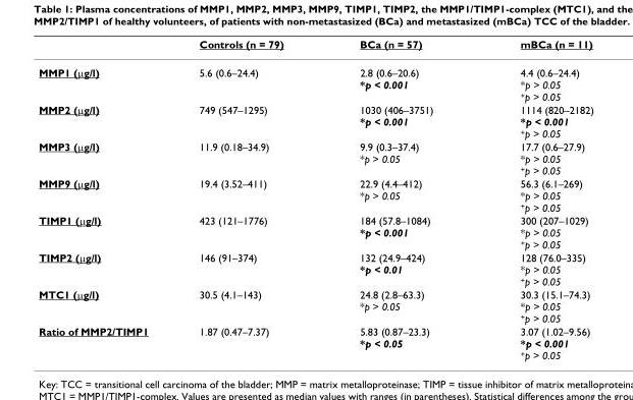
<table><thead><tr><td></td><td>Controls (n = 79)</td><td>BCa (n = 57)</td><td>mBCa (n = 11)</td></tr></thead><tbody><tr><td>MMP1 (μg/l)</td><td>5.6 (0.6–24.4)</td><td>2.8 (0.6–20.6) *p &lt; 0.001</td><td>4.4 (0.6–24.4) *p &gt; 0.05 +p &gt; 0.05</td></tr><tr><td>MMP2 (μg/l)</td><td>749 (547–1295)</td><td>1030 (406–3751) *p &lt; 0.001</td><td>1114 (820–2182) *p &lt; 0.001 +p &gt; 0.05</td></tr><tr><td>MMP3 (μg/l)</td><td>11.9 (0.18–34.9)</td><td>9.9 (0.3–37.4) *p &gt; 0.05</td><td>17.7 (0.6–27.9) *p &gt; 0.05 +p &gt; 0.05</td></tr><tr><td>MMP9 (μg/l)</td><td>19.4 (3.52–411)</td><td>22.9 (4.4–412) *p &gt; 0.05</td><td>56.3 (6.1–269) *p &gt; 0.05 +p &gt; 0.05</td></tr><tr><td>TIMP1 (μg/l)</td><td>423 (121–1776)</td><td>184 (57.8–1084) *p &lt; 0.001</td><td>300 (207–1029) *p &gt; 0.05 +p &gt; 0.05</td></tr><tr><td>TIMP2 (μg/l)</td><td>146 (91–374)</td><td>132 (24.9–424) *p &lt; 0.01</td><td>128 (76.0–335) *p &gt; 0.05 +p &gt; 0.05</td></tr><tr><td>MTC1 (μg/l)</td><td>30.5 (4.1–143)</td><td>24.8 (2.8–63.3) *p &gt; 0.05</td><td>30.3 (15.1–74.3) *p &gt; 0.05 +p &gt; 0.05</td></tr><tr><td>Ratio of MMP2/TIMP1</td><td>1.87 (0.47–7.37)</td><td>5.83 (0.87–23.3) *p &lt; 0.05</td><td>3.07 (1.02–9.56) *p &lt; 0.001 +p &gt; 0.05</td></tr></tbody></table>